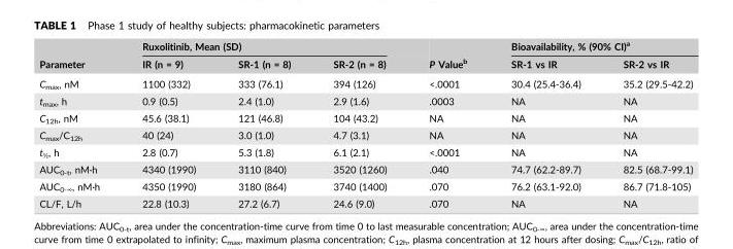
<table><thead><tr><td rowspan="2">Parameter</td><td colspan="3">Ruxolitinib, Mean (SD)</td><td rowspan="2">P Value<sup>b</sup></td><td colspan="2">Bioavailability, % (90% CI)<sup>a</sup></td></tr><tr><td>IR (n = 9)</td><td>SR‐1 (n = 8)</td><td>SR‐2 (n = 8)</td><td>SR‐1 vs IR</td><td>SR‐2 vs IR</td></tr></thead><tbody><tr><td>C<sub>max</sub>, nM</td><td>1100 (332)</td><td>333 (76.1)</td><td>394 (126)</td><td>&lt;.0001</td><td>30.4 (25.4‐36.4)</td><td>35.2 (29.5‐42.2)</td></tr><tr><td>t<sub>max</sub>, h</td><td>0.9 (0.5)</td><td>2.4 (1.0)</td><td>2.9 (1.6)</td><td>.0003</td><td>NA</td><td>NA</td></tr><tr><td>C<sub>12h</sub>, nM</td><td>45.6 (38.1)</td><td>121 (46.8)</td><td>104 (43.2)</td><td>NA</td><td>NA</td><td>NA</td></tr><tr><td>C<sub>max</sub>/C<sub>12h</sub></td><td>40 (24)</td><td>3.0 (1.0)</td><td>4.7 (3.1)</td><td>NA</td><td>NA</td><td>NA</td></tr><tr><td>t<sub>½</sub>, h</td><td>2.8 (0.7)</td><td>5.3 (1.8)</td><td>6.1 (2.1)</td><td>&lt;.0001</td><td>NA</td><td>NA</td></tr><tr><td>AUC<sub>0‐t</sub>, nM·h</td><td>4340 (1990)</td><td>3110 (840)</td><td>3520 (1260)</td><td>.040</td><td>74.7 (62.2‐89.7)</td><td>82.5 (68.7‐99.1)</td></tr><tr><td>AUC<sub>0‐∞</sub>, nM·h</td><td>4350 (1990)</td><td>3180 (864)</td><td>3740 (1400)</td><td>.070</td><td>76.2 (63.1‐92.0)</td><td>86.7 (71.8‐105)</td></tr><tr><td>CL/F, L/h</td><td>22.8 (10.3)</td><td>27.2 (6.7)</td><td>24.6 (9.0)</td><td>.070</td><td>NA</td><td>NA</td></tr></tbody></table>